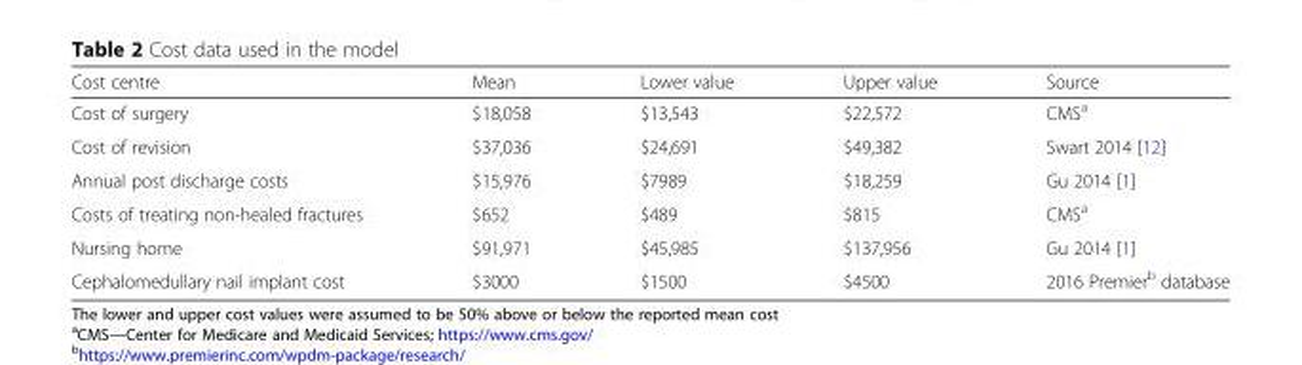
<table><thead><tr><td>Cost centre</td><td>Mean</td><td>Lower value</td><td>Upper value</td><td>Source</td></tr></thead><tbody><tr><td>Cost of surgery</td><td>$18,058</td><td>$13,543</td><td>$22,572</td><td>CMS<sup>a</sup></td></tr><tr><td>Cost of revision</td><td>$37,036</td><td>$24,691</td><td>$49,382</td><td>Swart 2014 [12]</td></tr><tr><td>Annual post discharge costs</td><td>$15,976</td><td>$7989</td><td>$18,259</td><td>Gu 2014 [1]</td></tr><tr><td>Costs of treating non-healed fractures</td><td>$652</td><td>$489</td><td>$815</td><td>CMS<sup>a</sup></td></tr><tr><td>Nursing home</td><td>$91,971</td><td>$45,985</td><td>$137,956</td><td>Gu 2014 [1]</td></tr><tr><td>Cephalomedullary nail implant cost</td><td>$3000</td><td>$1500</td><td>$4500</td><td>2016 Premier<sup>b</sup> database</td></tr></tbody></table>